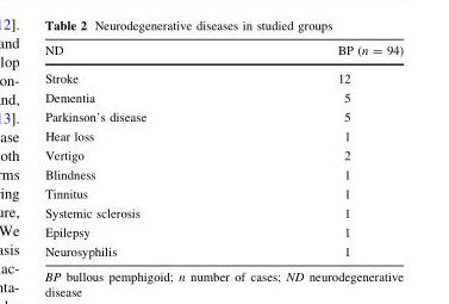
<table><thead><tr><td>ND</td><td>BP (n = 94)</td></tr></thead><tbody><tr><td>Stroke</td><td>12</td></tr><tr><td>Dementia</td><td>5</td></tr><tr><td>Parkinson’s disease</td><td>5</td></tr><tr><td>Hear loss</td><td>1</td></tr><tr><td>Vertigo</td><td>2</td></tr><tr><td>Blindness</td><td>1</td></tr><tr><td>Tinnitus</td><td>1</td></tr><tr><td>Systemic sclerosis</td><td>1</td></tr><tr><td>Epilepsy</td><td>1</td></tr><tr><td>Neurosyphilis</td><td>1</td></tr></tbody></table>